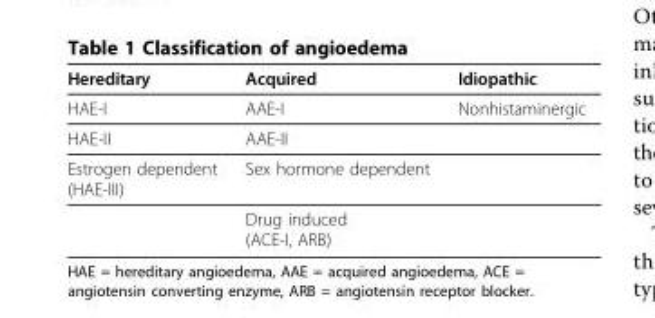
<table><thead><tr><td>Hereditary</td><td>Acquired</td><td>Idiopathic</td></tr></thead><tbody><tr><td>HAE-I</td><td>AAE-I</td><td>Nonhistaminergic</td></tr><tr><td>HAE-II</td><td>AAE-II</td><td></td></tr><tr><td rowspan="2">Estrogen dependent (HAE-III)</td><td>Sex hormone dependent</td><td></td></tr><tr><td>Drug induced (ACE-I, ARB)</td><td></td></tr></tbody></table>